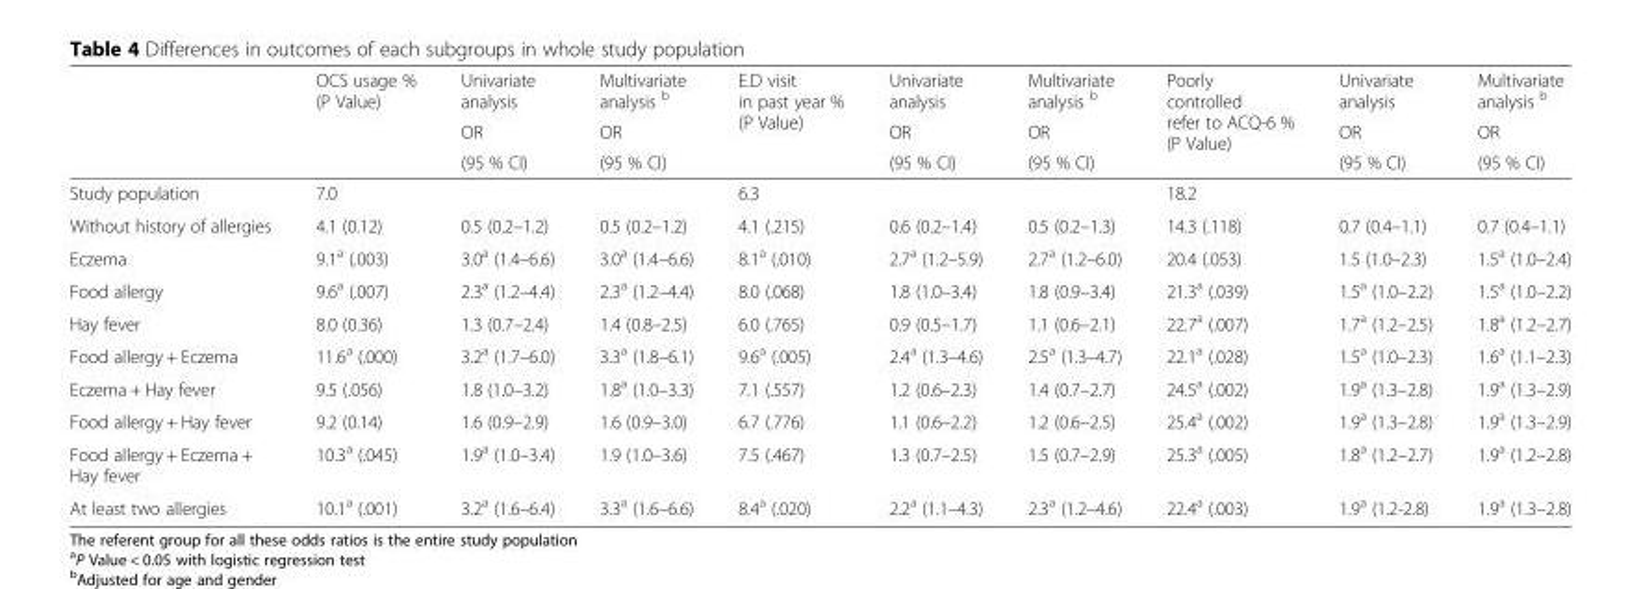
<table><thead><tr><td rowspan="3"></td><td rowspan="3">OCS usage % (P Value)</td><td rowspan="3">Univariate analysis OR (95 % CI)</td><td rowspan="3">Multivariate analysis <sup>b</sup> OR (95 % CI)</td><td rowspan="3">E.D visit in past year % (P Value)</td><td rowspan="3">Univariate analysis OR (95 % CI)</td><td rowspan="3">Multivariate analysis <sup>b</sup> OR (95 % CI)</td><td rowspan="3">Poorly controlled refer to ACQ-6 % (P Value)</td><td rowspan="3">Univariate analysis OR (95 % CI)</td><td rowspan="3">Multivariate analysis <sup>b</sup> OR (95 % CI)</td></tr><tr></tr><tr></tr></thead><tbody><tr><td>Study population</td><td>7.0</td><td></td><td></td><td>6.3</td><td></td><td></td><td>18.2</td><td></td><td></td></tr><tr><td>Without history of allergies</td><td>4.1 (0.12)</td><td>0.5 (0.2–1.2)</td><td>0.5 (0.2–1.2)</td><td>4.1 (.215)</td><td>0.6 (0.2–1.4)</td><td>0.5 (0.2–1.3)</td><td>14.3 (.118)</td><td>0.7 (0.4–1.1)</td><td>0.7 (0.4–1.1)</td></tr><tr><td>Eczema</td><td>9.1<sup>a</sup> (.003)</td><td>3.0<sup>a</sup> (1.4–6.6)</td><td>3.0<sup>a</sup> (1.4–6.6)</td><td>8.1<sup>a</sup> (.010)</td><td>2.7<sup>a</sup> (1.2–5.9)</td><td>2.7<sup>a</sup> (1.2–6.0)</td><td>20.4 (.053)</td><td>1.5 (1.0–2.3)</td><td>1.5<sup>a</sup> (1.0–2.4)</td></tr><tr><td>Food allergy</td><td>9.6<sup>a</sup> (.007)</td><td>2.3<sup>a</sup> (1.2–4.4)</td><td>2.3<sup>a</sup> (1.2–4.4)</td><td>8.0 (.068)</td><td>1.8 (1.0–3.4)</td><td>1.8 (0.9–3.4)</td><td>21.3<sup>a</sup> (.039)</td><td>1.5<sup>a</sup> (1.0–2.2)</td><td>1.5<sup>a</sup> (1.0–2.2)</td></tr><tr><td>Hay fever</td><td>8.0 (0.36)</td><td>1.3 (0.7–2.4)</td><td>1.4 (0.8–2.5)</td><td>6.0 (.765)</td><td>0.9 (0.5–1.7)</td><td>1.1 (0.6–2.1)</td><td>22.7<sup>a</sup> (.007)</td><td>1.7<sup>a</sup> (1.2–2.5)</td><td>1.8<sup>a</sup> (1.2–2.7)</td></tr><tr><td>Food allergy + Eczema</td><td>11.6<sup>a</sup> (.000)</td><td>3.2<sup>a</sup> (1.7–6.0)</td><td>3.3<sup>a</sup> (1.8–6.1)</td><td>9.6<sup>a</sup> (.005)</td><td>2.4<sup>a</sup> (1.3–4.6)</td><td>2.5<sup>a</sup> (1.3–4.7)</td><td>22.1<sup>a</sup> (.028)</td><td>1.5<sup>a</sup> (1.0–2.3)</td><td>1.6<sup>a</sup> (1.1–2.3)</td></tr><tr><td>Eczema + Hay fever</td><td>9.5 (.056)</td><td>1.8 (1.0–3.2)</td><td>1.8<sup>a</sup> (1.0–3.3)</td><td>7.1 (.557)</td><td>1.2 (0.6–2.3)</td><td>1.4 (0.7–2.7)</td><td>24.5<sup>a</sup> (.002)</td><td>1.9<sup>a</sup> (1.3–2.8)</td><td>1.9<sup>a</sup> (1.3–2.9)</td></tr><tr><td>Food allergy + Hay fever</td><td>9.2 (0.14)</td><td>1.6 (0.9–2.9)</td><td>1.6 (0.9–3.0)</td><td>6.7 (.776)</td><td>1.1 (0.6–2.2)</td><td>1.2 (0.6–2.5)</td><td>25.4<sup>a</sup> (.002)</td><td>1.9<sup>a</sup> (1.3–2.8)</td><td>1.9<sup>a</sup> (1.3–2.9)</td></tr><tr><td>Food allergy + Eczema + Hay fever</td><td>10.3<sup>a</sup> (.045)</td><td>1.9<sup>a</sup> (1.0–3.4)</td><td>1.9 (1.0–3.6)</td><td>7.5 (.467)</td><td>1.3 (0.7–2.5)</td><td>1.5 (0.7–2.9)</td><td>25.3<sup>a</sup> (.005)</td><td>1.8<sup>a</sup> (1.2–2.7)</td><td>1.9<sup>a</sup> (1.2–2.8)</td></tr><tr><td>At least two allergies</td><td>10.1<sup>a</sup> (.001)</td><td>3.2<sup>a</sup> (1.6–6.4)</td><td>3.3<sup>a</sup> (1.6–6.6)</td><td>8.4<sup>a</sup> (.020)</td><td>2.2<sup>a</sup> (1.1–4.3)</td><td>2.3<sup>a</sup> (1.2–4.6)</td><td>22.4<sup>a</sup> (.003)</td><td>1.9<sup>a</sup> (1.2-2.8)</td><td>1.9<sup>a</sup> (1.3–2.8)</td></tr></tbody></table>